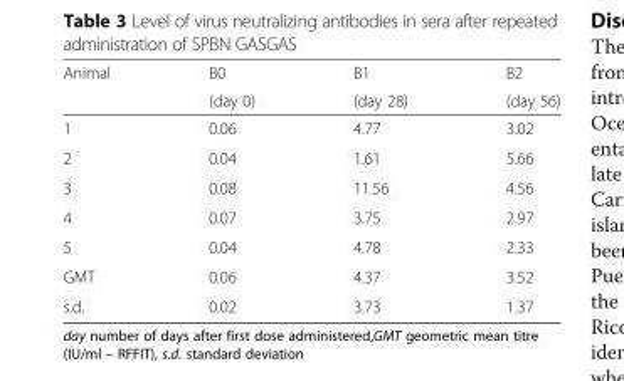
<table><thead><tr><td rowspan="2">Animal</td><td rowspan="2">B0 (day 0)</td><td rowspan="2">B1 (day 28)</td><td rowspan="2">B2 (day 56)</td></tr><tr></tr></thead><tbody><tr><td>1</td><td>0.06</td><td>4.77</td><td>3.02</td></tr><tr><td>2</td><td>0.04</td><td>1.61</td><td>5.66</td></tr><tr><td>3</td><td>0.08</td><td>11.56</td><td>4.56</td></tr><tr><td>4</td><td>0.07</td><td>3.75</td><td>2.97</td></tr><tr><td>5</td><td>0.04</td><td>4.78</td><td>2.33</td></tr><tr><td>GMT</td><td>0.06</td><td>4.37</td><td>3.52</td></tr><tr><td>s.d.</td><td>0.02</td><td>3.73</td><td>1.37</td></tr></tbody></table>